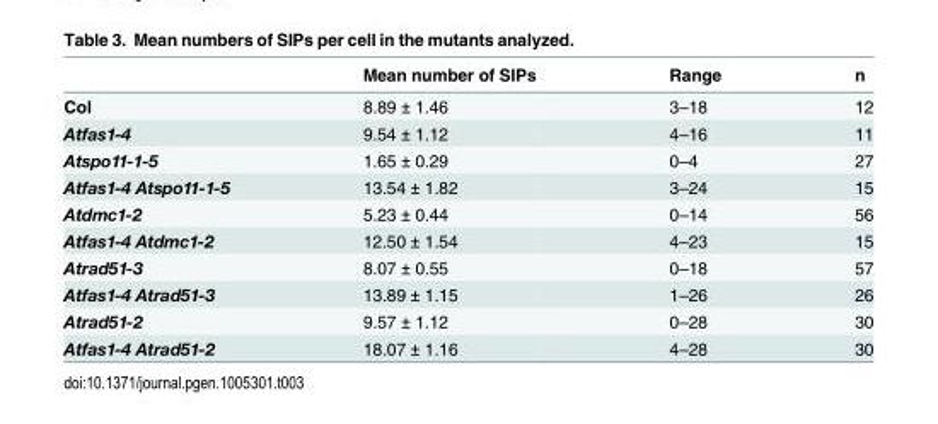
<table><thead><tr><td></td><td>Mean number of SIPs</td><td>Range</td><td>n</td></tr></thead><tbody><tr><td>Col</td><td>8.89 ± 1.46</td><td>3–18</td><td>12</td></tr><tr><td>Atfas1-4</td><td>9.54 ± 1.12</td><td>4–16</td><td>11</td></tr><tr><td>Atspo11-1-5</td><td>1.65 ± 0.29</td><td>0–4</td><td>27</td></tr><tr><td>Atfas1-4 Atspo11-1-5</td><td>13.54 ± 1.82</td><td>3–24</td><td>15</td></tr><tr><td>Atdmc1-2</td><td>5.23 ± 0.44</td><td>0–14</td><td>56</td></tr><tr><td>Atfas1-4 Atdmc1-2</td><td>12.50 ± 1.54</td><td>4–23</td><td>15</td></tr><tr><td>Atrad51-3</td><td>8.07 ± 0.55</td><td>0–18</td><td>57</td></tr><tr><td>Atfas1-4 Atrad51-3</td><td>13.89 ± 1.15</td><td>1–26</td><td>26</td></tr><tr><td>Atrad51-2</td><td>9.57 ± 1.12</td><td>0–28</td><td>30</td></tr><tr><td>Atfas1-4 Atrad51-2</td><td>18.07 ± 1.16</td><td>4–28</td><td>30</td></tr></tbody></table>